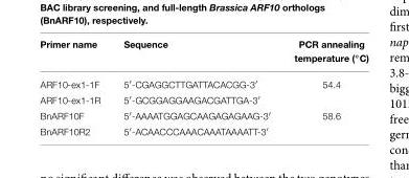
<table><thead><tr><td>Primer name</td><td>Sequence</td><td>PCR annealing temperature (◦C)</td></tr></thead><tbody><tr><td>ARF10-ex1-1F</td><td>5′-CGAGGCTTGATTACACGG-3′</td><td>54.4</td></tr><tr><td>ARF10-ex1-1R</td><td>5′-GCGGAGGAAGACGATTGA-3′</td><td></td></tr><tr><td>BnARF10F</td><td>5′-AAAATGGAGCAAGAGAGAAG-3′</td><td>58.6</td></tr><tr><td>BnARF10R2</td><td>5′-ACAACCCAAACAAATAAAATT-3′</td><td></td></tr></tbody></table>